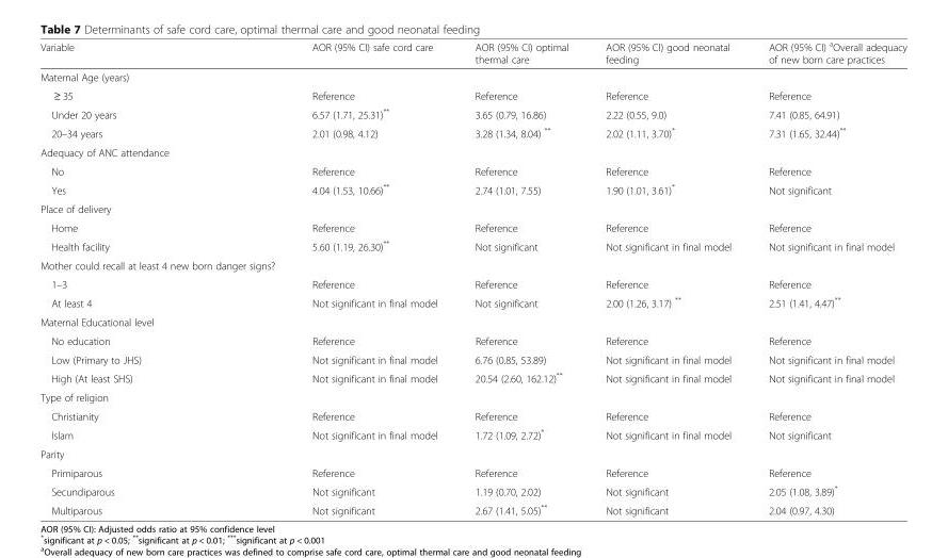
<table><thead><tr><td>Variable</td><td>AOR (95% CI) safe cord care</td><td>AOR (95% CI) optimal thermal care</td><td>AOR (95% CI) good neonatal feeding</td><td>AOR (95% CI) <sup>a</sup>Overall adequacy of new born care practices</td></tr></thead><tbody><tr><td colspan="5">Maternal Age (years)</td></tr><tr><td>≥ 35</td><td>Reference</td><td>Reference</td><td>Reference</td><td>Reference</td></tr><tr><td>Under 20 years</td><td>6.57 (1.71, 25.31)**</td><td>3.65 (0.79, 16.86)</td><td>2.22 (0.55, 9.0)</td><td>7.41 (0.85, 64.91)</td></tr><tr><td>20–34 years</td><td>2.01 (0.98, 4.12)</td><td>3.28 (1.34, 8.04) **</td><td>2.02 (1.11, 3.70)*</td><td>7.31 (1.65, 32.44)**</td></tr><tr><td colspan="5">Adequacy of ANC attendance</td></tr><tr><td>No</td><td>Reference</td><td>Reference</td><td>Reference</td><td>Reference</td></tr><tr><td>Yes</td><td>4.04 (1.53, 10.66)**</td><td>2.74 (1.01, 7.55)</td><td>1.90 (1.01, 3.61)*</td><td>Not significant</td></tr><tr><td colspan="5">Place of delivery</td></tr><tr><td>Home</td><td>Reference</td><td>Reference</td><td>Reference</td><td>Reference</td></tr><tr><td>Health facility</td><td>5.60 (1.19, 26.30)**</td><td>Not significant</td><td>Not significant in final model</td><td>Not significant in final model</td></tr><tr><td colspan="5">Mother could recall at least 4 new born danger signs?</td></tr><tr><td>1–3</td><td>Reference</td><td>Reference</td><td>Reference</td><td>Reference</td></tr><tr><td>At least 4</td><td>Not significant in final model</td><td>Not significant</td><td>2.00 (1.26, 3.17) **</td><td>2.51 (1.41, 4.47)**</td></tr><tr><td colspan="5">Maternal Educational level</td></tr><tr><td>No education</td><td>Reference</td><td>Reference</td><td>Reference</td><td>Reference</td></tr><tr><td>Low (Primary to JHS)</td><td>Not significant in final model</td><td>6.76 (0.85, 53.89)</td><td>Not significant in final model</td><td>Not significant in final model</td></tr><tr><td>High (At least SHS)</td><td>Not significant in final model</td><td>20.54 (2.60, 162.12)**</td><td>Not significant in final model</td><td>Not significant in final model</td></tr><tr><td colspan="5">Type of religion</td></tr><tr><td>Christianity</td><td>Reference</td><td>Reference</td><td>Reference</td><td>Reference</td></tr><tr><td>Islam</td><td>Not significant in final model</td><td>1.72 (1.09, 2.72)*</td><td>Not significant in final model</td><td>Not significant</td></tr><tr><td colspan="5">Parity</td></tr><tr><td>Primiparous</td><td>Reference</td><td>Reference</td><td>Reference</td><td>Reference</td></tr><tr><td>Secundiparous</td><td>Not significant</td><td>1.19 (0.70, 2.02)</td><td>Not significant</td><td>2.05 (1.08, 3.89)*</td></tr><tr><td>Multiparous</td><td>Not significant</td><td>2.67 (1.41, 5.05)**</td><td>Not significant</td><td>2.04 (0.97, 4.30)</td></tr></tbody></table>